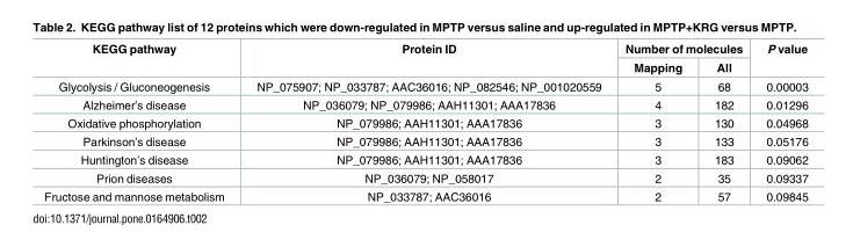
<table><thead><tr><td rowspan="2">KEGG pathway</td><td rowspan="2">Protein ID</td><td colspan="2">Number of molecules</td><td rowspan="2">P value</td></tr><tr><td>Mapping</td><td>All</td></tr></thead><tbody><tr><td>Glycolysis / Gluconeogenesis</td><td>NP_075907; NP_033787; AAC36016; NP_082546; NP_001020559</td><td>5</td><td>68</td><td>0.00003</td></tr><tr><td>Alzheimer’s disease</td><td>NP_036079; NP_079986; AAH11301; AAA17836</td><td>4</td><td>182</td><td>0.01296</td></tr><tr><td>Oxidative phosphorylation</td><td>NP_079986; AAH11301; AAA17836</td><td>3</td><td>130</td><td>0.04968</td></tr><tr><td>Parkinson’s disease</td><td>NP_079986; AAH11301; AAA17836</td><td>3</td><td>133</td><td>0.05176</td></tr><tr><td>Huntington’s disease</td><td>NP_079986; AAH11301; AAA17836</td><td>3</td><td>183</td><td>0.09062</td></tr><tr><td>Prion diseases</td><td>NP_036079; NP_058017</td><td>2</td><td>35</td><td>0.09337</td></tr><tr><td>Fructose and mannose metabolism</td><td>NP_033787; AAC36016</td><td>2</td><td>57</td><td>0.09845</td></tr></tbody></table>